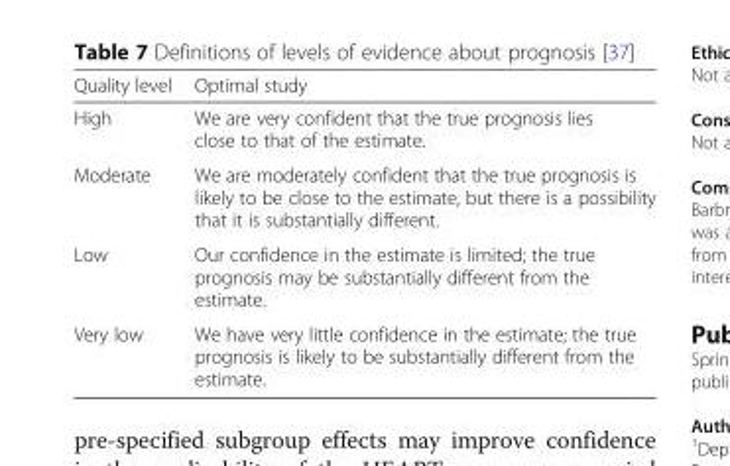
<table><thead><tr><td>Quality level</td><td>Optimal study</td></tr></thead><tbody><tr><td>High</td><td>We are very confident that the true prognosis lies close to that of the estimate.</td></tr><tr><td>Moderate</td><td>We are moderately confident that the true prognosis is likely to be close to the estimate, but there is a possibility that it is substantially different.</td></tr><tr><td>Low</td><td>Our confidence in the estimate is limited; the true prognosis may be substantially different from the estimate.</td></tr><tr><td>Very low</td><td>We have very little confidence in the estimate; the true prognosis is likely to be substantially different from the estimate.</td></tr></tbody></table>